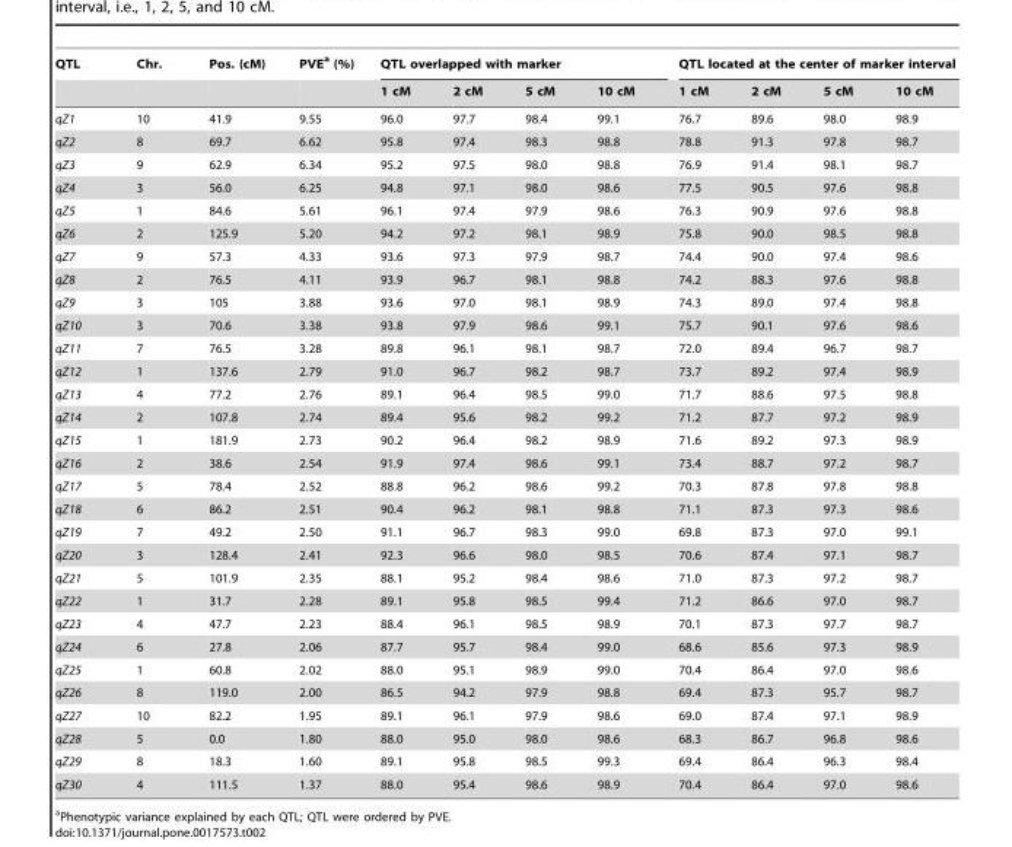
<table><thead><tr><td rowspan="2">QTL</td><td rowspan="2">Chr.</td><td rowspan="2">Pos. (cM)</td><td rowspan="2">PVE<sup>a</sup> (%)</td><td colspan="4">QTL overlapped with marker</td><td colspan="4">QTL located at the center of marker interval</td></tr><tr><td>1 cM</td><td>2 cM</td><td>5 cM</td><td>10 cM</td><td>1 cM</td><td>2 cM</td><td>5 cM</td><td>10 cM</td></tr></thead><tbody><tr><td>qZ1</td><td>10</td><td>41.9</td><td>9.55</td><td>96.0</td><td>97.7</td><td>98.4</td><td>99.1</td><td>76.7</td><td>89.6</td><td>98.0</td><td>98.9</td></tr><tr><td>qZ2</td><td>8</td><td>69.7</td><td>6.62</td><td>95.8</td><td>97.4</td><td>98.3</td><td>98.8</td><td>78.8</td><td>91.3</td><td>97.8</td><td>98.7</td></tr><tr><td>qZ3</td><td>9</td><td>62.9</td><td>6.34</td><td>95.2</td><td>97.5</td><td>98.0</td><td>98.8</td><td>76.9</td><td>91.4</td><td>98.1</td><td>98.7</td></tr><tr><td>qZ4</td><td>3</td><td>56.0</td><td>6.25</td><td>94.8</td><td>97.1</td><td>98.0</td><td>98.6</td><td>77.5</td><td>90.5</td><td>97.6</td><td>98.8</td></tr><tr><td>qZ5</td><td>1</td><td>84.6</td><td>5.61</td><td>96.1</td><td>97.4</td><td>97.9</td><td>98.6</td><td>76.3</td><td>90.9</td><td>97.6</td><td>98.8</td></tr><tr><td>qZ6</td><td>2</td><td>125.9</td><td>5.20</td><td>94.2</td><td>97.2</td><td>98.1</td><td>98.9</td><td>75.8</td><td>90.0</td><td>98.5</td><td>98.8</td></tr><tr><td>qZ7</td><td>9</td><td>57.3</td><td>4.33</td><td>93.6</td><td>97.3</td><td>97.9</td><td>98.7</td><td>74.4</td><td>90.0</td><td>97.4</td><td>98.6</td></tr><tr><td>qZ8</td><td>2</td><td>76.5</td><td>4.11</td><td>93.9</td><td>96.7</td><td>98.1</td><td>98.8</td><td>74.2</td><td>88.3</td><td>97.6</td><td>98.8</td></tr><tr><td>qZ9</td><td>3</td><td>105</td><td>3.88</td><td>93.6</td><td>97.0</td><td>98.1</td><td>98.9</td><td>74.3</td><td>89.0</td><td>97.4</td><td>98.8</td></tr><tr><td>qZ10</td><td>3</td><td>70.6</td><td>3.38</td><td>93.8</td><td>97.9</td><td>98.6</td><td>99.1</td><td>75.7</td><td>90.1</td><td>97.6</td><td>98.6</td></tr><tr><td>qZ11</td><td>7</td><td>76.5</td><td>3.28</td><td>89.8</td><td>96.1</td><td>98.1</td><td>98.7</td><td>72.0</td><td>89.4</td><td>96.7</td><td>98.7</td></tr><tr><td>qZ12</td><td>1</td><td>137.6</td><td>2.79</td><td>91.0</td><td>96.7</td><td>98.2</td><td>98.7</td><td>73.7</td><td>89.2</td><td>97.4</td><td>98.9</td></tr><tr><td>qZ13</td><td>4</td><td>77.2</td><td>2.76</td><td>89.1</td><td>96.4</td><td>98.5</td><td>99.0</td><td>71.7</td><td>88.6</td><td>97.5</td><td>98.8</td></tr><tr><td>qZ14</td><td>2</td><td>107.8</td><td>2.74</td><td>89.4</td><td>95.6</td><td>98.2</td><td>99.2</td><td>71.2</td><td>87.7</td><td>97.2</td><td>98.9</td></tr><tr><td>qZ15</td><td>1</td><td>181.9</td><td>2.73</td><td>90.2</td><td>96.4</td><td>98.2</td><td>98.9</td><td>71.6</td><td>89.2</td><td>97.3</td><td>98.9</td></tr><tr><td>qZ16</td><td>2</td><td>38.6</td><td>2.54</td><td>91.9</td><td>97.4</td><td>98.6</td><td>99.1</td><td>73.4</td><td>88.7</td><td>97.2</td><td>98.7</td></tr><tr><td>qZ17</td><td>5</td><td>78.4</td><td>2.52</td><td>88.8</td><td>96.2</td><td>98.6</td><td>99.2</td><td>70.3</td><td>87.8</td><td>97.8</td><td>98.8</td></tr><tr><td>qZ18</td><td>6</td><td>86.2</td><td>2.51</td><td>90.4</td><td>96.2</td><td>98.1</td><td>98.8</td><td>71.1</td><td>87.3</td><td>97.3</td><td>98.6</td></tr><tr><td>qZ19</td><td>7</td><td>49.2</td><td>2.50</td><td>91.1</td><td>96.7</td><td>98.3</td><td>99.0</td><td>69.8</td><td>87.3</td><td>97.0</td><td>99.1</td></tr><tr><td>qZ20</td><td>3</td><td>128.4</td><td>2.41</td><td>92.3</td><td>96.6</td><td>98.0</td><td>98.5</td><td>70.6</td><td>87.4</td><td>97.1</td><td>98.7</td></tr><tr><td>qZ21</td><td>5</td><td>101.9</td><td>2.35</td><td>88.1</td><td>95.2</td><td>98.4</td><td>98.6</td><td>71.0</td><td>87.3</td><td>97.2</td><td>98.7</td></tr><tr><td>qZ22</td><td>1</td><td>31.7</td><td>2.28</td><td>89.1</td><td>95.8</td><td>98.5</td><td>99.4</td><td>71.2</td><td>86.6</td><td>97.0</td><td>98.7</td></tr><tr><td>qZ23</td><td>4</td><td>47.7</td><td>2.23</td><td>88.4</td><td>96.1</td><td>98.5</td><td>98.9</td><td>70.1</td><td>87.3</td><td>97.7</td><td>98.7</td></tr><tr><td>qZ24</td><td>6</td><td>27.8</td><td>2.06</td><td>87.7</td><td>95.7</td><td>98.4</td><td>99.0</td><td>68.6</td><td>85.6</td><td>97.3</td><td>98.9</td></tr><tr><td>qZ25</td><td>1</td><td>60.8</td><td>2.02</td><td>88.0</td><td>95.1</td><td>98.9</td><td>99.0</td><td>70.4</td><td>86.4</td><td>97.0</td><td>98.6</td></tr><tr><td>qZ26</td><td>8</td><td>119.0</td><td>2.00</td><td>86.5</td><td>94.2</td><td>97.9</td><td>98.8</td><td>69.4</td><td>87.3</td><td>95.7</td><td>98.7</td></tr><tr><td>qZ27</td><td>10</td><td>82.2</td><td>1.95</td><td>89.1</td><td>96.1</td><td>97.9</td><td>98.6</td><td>69.0</td><td>87.4</td><td>97.1</td><td>98.9</td></tr><tr><td>qZ28</td><td>5</td><td>0.0</td><td>1.80</td><td>88.0</td><td>95.0</td><td>98.0</td><td>98.6</td><td>68.3</td><td>86.7</td><td>96.8</td><td>98.6</td></tr><tr><td>qZ29</td><td>8</td><td>18.3</td><td>1.60</td><td>89.1</td><td>95.8</td><td>98.5</td><td>99.3</td><td>69.4</td><td>86.4</td><td>96.3</td><td>98.4</td></tr><tr><td>qZ30</td><td>4</td><td>111.5</td><td>1.37</td><td>88.0</td><td>95.4</td><td>98.6</td><td>98.9</td><td>70.4</td><td>86.4</td><td>97.0</td><td>98.6</td></tr></tbody></table>